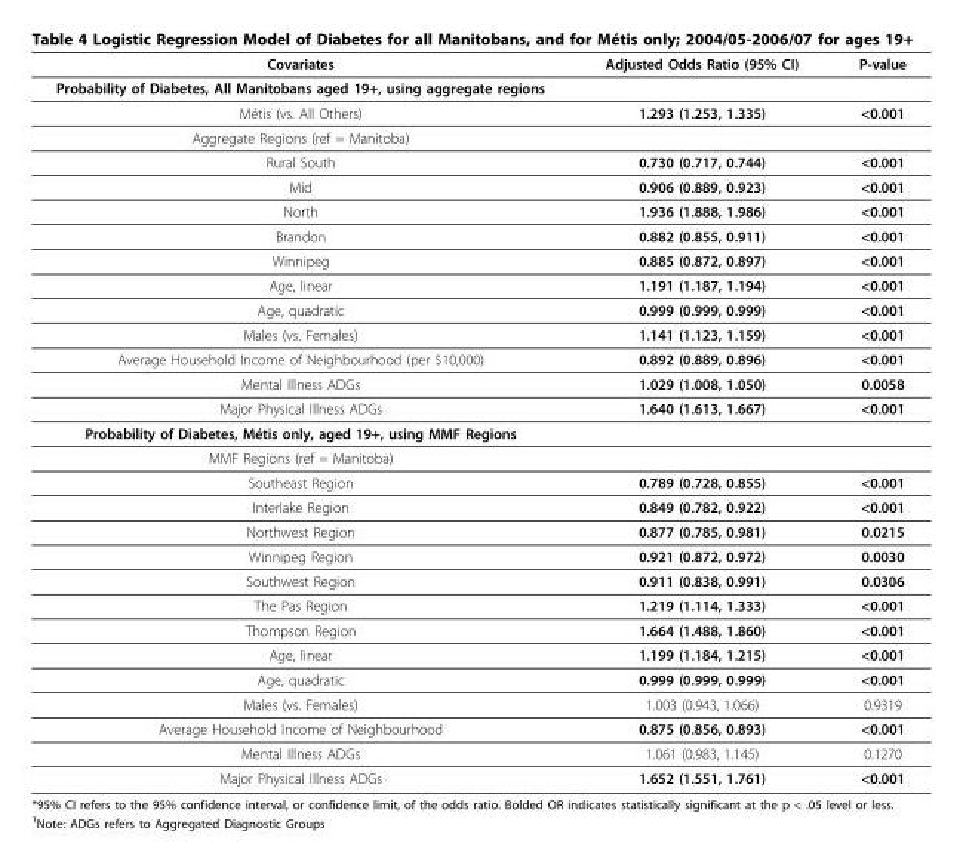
<table><thead><tr><td>Covariates</td><td>Adjusted Odds Ratio (95% CI)</td><td>P-value</td></tr></thead><tbody><tr><td colspan="3">Probability of Diabetes, All Manitobans aged 19+, using aggregate regions</td></tr><tr><td>Métis (vs. All Others)</td><td>1.293 (1.253, 1.335)</td><td>&lt;0.001</td></tr><tr><td colspan="3">Aggregate Regions (ref = Manitoba)</td></tr><tr><td>Rural South</td><td>0.730 (0.717, 0.744)</td><td>&lt;0.001</td></tr><tr><td>Mid</td><td>0.906 (0.889, 0.923)</td><td>&lt;0.001</td></tr><tr><td>North</td><td>1.936 (1.888, 1.986)</td><td>&lt;0.001</td></tr><tr><td>Brandon</td><td>0.882 (0.855, 0.911)</td><td>&lt;0.001</td></tr><tr><td>Winnipeg</td><td>0.885 (0.872, 0.897)</td><td>&lt;0.001</td></tr><tr><td>Age, linear</td><td>1.191 (1.187, 1.194)</td><td>&lt;0.001</td></tr><tr><td>Age, quadratic</td><td>0.999 (0.999, 0.999)</td><td>&lt;0.001</td></tr><tr><td>Males (vs. Females)</td><td>1.141 (1.123, 1.159)</td><td>&lt;0.001</td></tr><tr><td>Average Household Income of Neighbourhood (per $10,000)</td><td>0.892 (0.889, 0.896)</td><td>&lt;0.001</td></tr><tr><td>Mental Illness ADGs</td><td>1.029 (1.008, 1.050)</td><td>0.0058</td></tr><tr><td>Major Physical Illness ADGs</td><td>1.640 (1.613, 1.667)</td><td>&lt;0.001</td></tr><tr><td colspan="3">Probability of Diabetes, Métis only, aged 19+, using MMF Regions</td></tr><tr><td colspan="3">MMF Regions (ref = Manitoba)</td></tr><tr><td>Southeast Region</td><td>0.789 (0.728, 0.855)</td><td>&lt;0.001</td></tr><tr><td>Interlake Region</td><td>0.849 (0.782, 0.922)</td><td>&lt;0.001</td></tr><tr><td>Northwest Region</td><td>0.877 (0.785, 0.981)</td><td>0.0215</td></tr><tr><td>Winnipeg Region</td><td>0.921 (0.872, 0.972)</td><td>0.0030</td></tr><tr><td>Southwest Region</td><td>0.911 (0.838, 0.991)</td><td>0.0306</td></tr><tr><td>The Pas Region</td><td>1.219 (1.114, 1.333)</td><td>&lt;0.001</td></tr><tr><td>Thompson Region</td><td>1.664 (1.488, 1.860)</td><td>&lt;0.001</td></tr><tr><td>Age, linear</td><td>1.199 (1.184, 1.215)</td><td>&lt;0.001</td></tr><tr><td>Age, quadratic</td><td>0.999 (0.999, 0.999)</td><td>&lt;0.001</td></tr><tr><td>Males (vs. Females)</td><td>1.003 (0.943, 1.066)</td><td>0.9319</td></tr><tr><td>Average Household Income of Neighbourhood</td><td>0.875 (0.856, 0.893)</td><td>&lt;0.001</td></tr><tr><td>Mental Illness ADGs</td><td>1.061 (0.983, 1.145)</td><td>0.1270</td></tr><tr><td>Major Physical Illness ADGs</td><td>1.652 (1.551, 1.761)</td><td>&lt;0.001</td></tr></tbody></table>